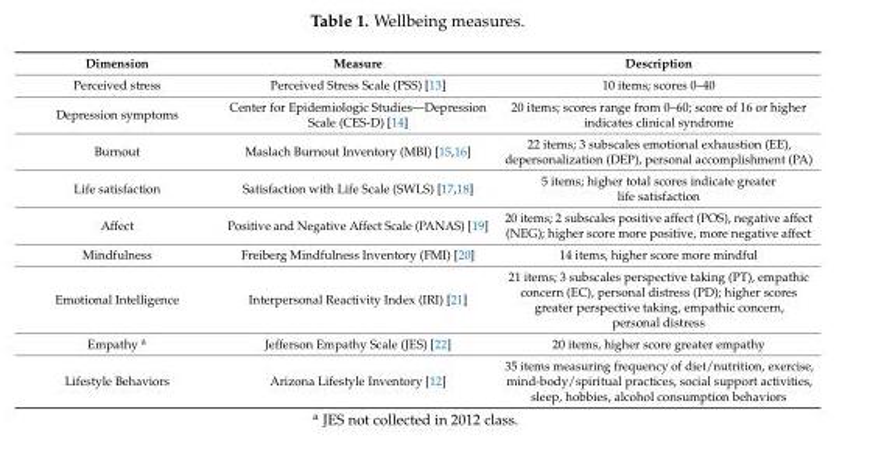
<table><thead><tr><td>Dimension</td><td>Measure</td><td>Description</td></tr></thead><tbody><tr><td>Perceived stress</td><td>Perceived Stress Scale (PSS) [13]</td><td>10 items; scores 0–40</td></tr><tr><td>Depression symptoms</td><td>Center for Epidemiologic Studies—Depression Scale (CES-D) [14]</td><td>20 items; scores range from 0–60; score of 16 or higher indicates clinical syndrome</td></tr><tr><td>Burnout</td><td>Maslach Burnout Inventory (MBI) [15,16]</td><td>22 items; 3 subscales emotional exhaustion (EE), depersonalization (DEP), personal accomplishment (PA)</td></tr><tr><td>Life satisfaction</td><td>Satisfaction with Life Scale (SWLS) [17,18]</td><td>5 items; higher total scores indicate greater life satisfaction</td></tr><tr><td>Affect</td><td>Positive and Negative Affect Scale (PANAS) [19]</td><td>20 items; 2 subscales positive affect (POS), negative affect (NEG); higher score more positive, more negative affect</td></tr><tr><td>Mindfulness</td><td>Freiberg Mindfulness Inventory (FMI) [20]</td><td>14 items, higher score more mindful</td></tr><tr><td>Emotional Intelligence</td><td>Interpersonal Reactivity Index (IRI) [21]</td><td>21 items; 3 subscales perspective taking (PT), empathic concern (EC), personal distress (PD); higher scores greater perspective taking, empathic concern, personal distress</td></tr><tr><td>Empathy <sup>a</sup></td><td>Jefferson Empathy Scale (JES) [22]</td><td>20 items, higher score greater empathy</td></tr><tr><td>Lifestyle Behaviors</td><td>Arizona Lifestyle Inventory [12]</td><td>35 items measuring frequency of diet/nutrition, exercise, mind-body/spiritual practices, social support activities, sleep, hobbies, alcohol consumption behaviors</td></tr></tbody></table>